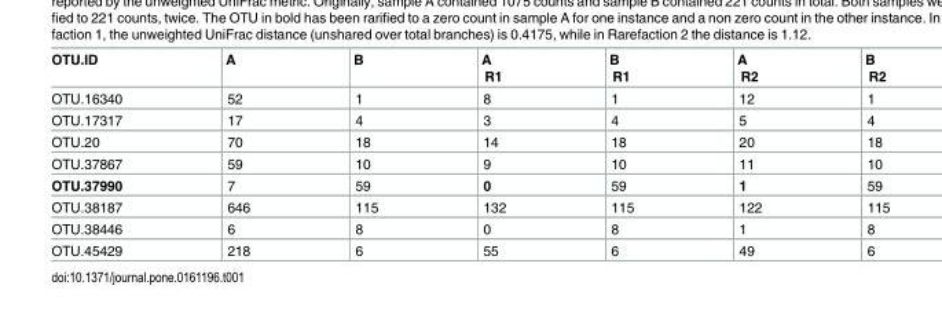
<table><thead><tr><td>OTU.ID</td><td>A</td><td>B</td><td>A R1</td><td>B R1</td><td>A R2</td><td>B R2</td></tr></thead><tbody><tr><td>OTU.16340</td><td>52</td><td>1</td><td>8</td><td>1</td><td>12</td><td>1</td></tr><tr><td>OTU.17317</td><td>17</td><td>4</td><td>3</td><td>4</td><td>5</td><td>4</td></tr><tr><td>OTU.20</td><td>70</td><td>18</td><td>14</td><td>18</td><td>20</td><td>18</td></tr><tr><td>OTU.37867</td><td>59</td><td>10</td><td>9</td><td>10</td><td>11</td><td>10</td></tr><tr><td>OTU.37990</td><td>7</td><td>59</td><td>0</td><td>59</td><td>1</td><td>59</td></tr><tr><td>OTU.38187</td><td>646</td><td>115</td><td>132</td><td>115</td><td>122</td><td>115</td></tr><tr><td>OTU.38446</td><td>6</td><td>8</td><td>0</td><td>8</td><td>1</td><td>8</td></tr><tr><td>OTU.45429</td><td>218</td><td>6</td><td>55</td><td>6</td><td>49</td><td>6</td></tr></tbody></table>